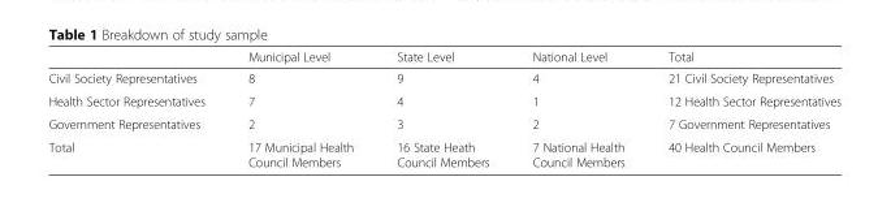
<table><thead><tr><td></td><td>Municipal Level</td><td>State Level</td><td>National Level</td><td>Total</td></tr></thead><tbody><tr><td>Civil Society Representatives</td><td>8</td><td>9</td><td>4</td><td>21 Civil Society Representatives</td></tr><tr><td>Health Sector Representatives</td><td>7</td><td>4</td><td>1</td><td>12 Health Sector Representatives</td></tr><tr><td>Government Representatives</td><td>2</td><td>3</td><td>2</td><td>7 Government Representatives</td></tr><tr><td>Total</td><td>17 Municipal Health Council Members</td><td>16 State Heath Council Members</td><td>7 National Health Council Members</td><td>40 Health Council Members</td></tr></tbody></table>